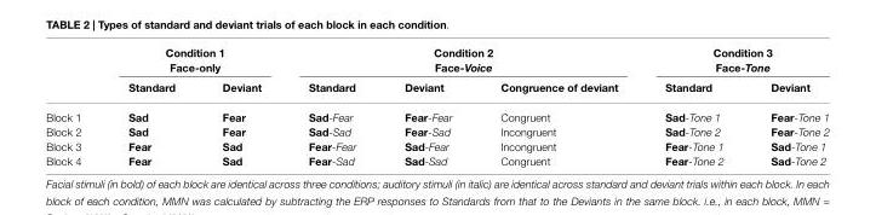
<table><thead><tr><td rowspan="3"></td><td rowspan="2" colspan="2">Condition 1 Face-only</td><td rowspan="2" colspan="3">Condition 2 Face-Voice</td><td rowspan="2" colspan="2">Condition 3 Face-Tone</td></tr><tr></tr><tr><td>Standard</td><td>Deviant</td><td>Standard</td><td>Deviant</td><td>Congruence of deviant</td><td>Standard</td><td>Deviant</td></tr></thead><tbody><tr><td>Block 1</td><td>Sad</td><td>Fear</td><td>Sad-Fear</td><td>Fear-Fear</td><td>Congruent</td><td>Sad-Tone 1</td><td>Fear-Tone 1</td></tr><tr><td>Block 2</td><td>Sad</td><td>Fear</td><td>Sad-Sad</td><td>Fear-Sad</td><td>Incongruent</td><td>Sad-Tone 2</td><td>Fear-Tone 2</td></tr><tr><td>Block 3</td><td>Fear</td><td>Sad</td><td>Fear-Fear</td><td>Sad-Fear</td><td>Incongruent</td><td>Fear-Tone 1</td><td>Sad-Tone 1</td></tr><tr><td>Block 4</td><td>Fear</td><td>Sad</td><td>Fear-Sad</td><td>Sad-Sad</td><td>Congruent</td><td>Fear-Tone 2</td><td>Sad-Tone 2</td></tr></tbody></table>